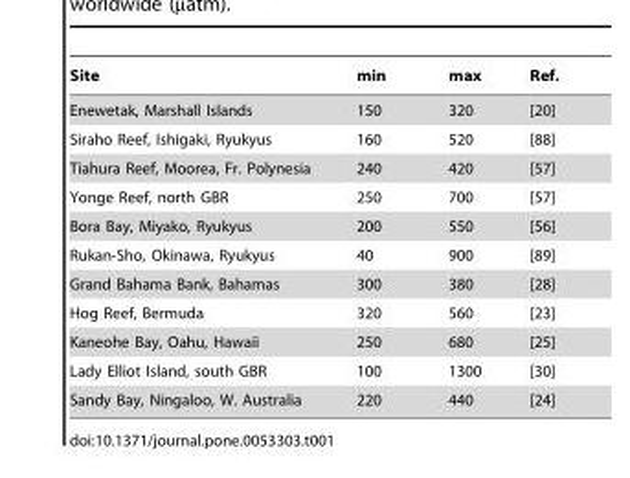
<table><thead><tr><td>Site</td><td>min</td><td>max</td><td>Ref.</td></tr></thead><tbody><tr><td>Enewetak, Marshall Islands</td><td>150</td><td>320</td><td>[20]</td></tr><tr><td>Siraho Reef, Ishigaki, Ryukyus</td><td>160</td><td>520</td><td>[88]</td></tr><tr><td>Tiahura Reef, Moorea, Fr. Polynesia</td><td>240</td><td>420</td><td>[57]</td></tr><tr><td>Yonge Reef, north GBR</td><td>250</td><td>700</td><td>[57]</td></tr><tr><td>Bora Bay, Miyako, Ryukyus</td><td>200</td><td>550</td><td>[56]</td></tr><tr><td>Rukan-Sho, Okinawa, Ryukyus</td><td>40</td><td>900</td><td>[89]</td></tr><tr><td>Grand Bahama Bank, Bahamas</td><td>300</td><td>380</td><td>[28]</td></tr><tr><td>Hog Reef, Bermuda</td><td>320</td><td>560</td><td>[23]</td></tr><tr><td>Kaneohe Bay, Oahu, Hawaii</td><td>250</td><td>680</td><td>[25]</td></tr><tr><td>Lady Elliot Island, south GBR</td><td>100</td><td>1300</td><td>[30]</td></tr><tr><td>Sandy Bay, Ningaloo, W. Australia</td><td>220</td><td>440</td><td>[24]</td></tr></tbody></table>